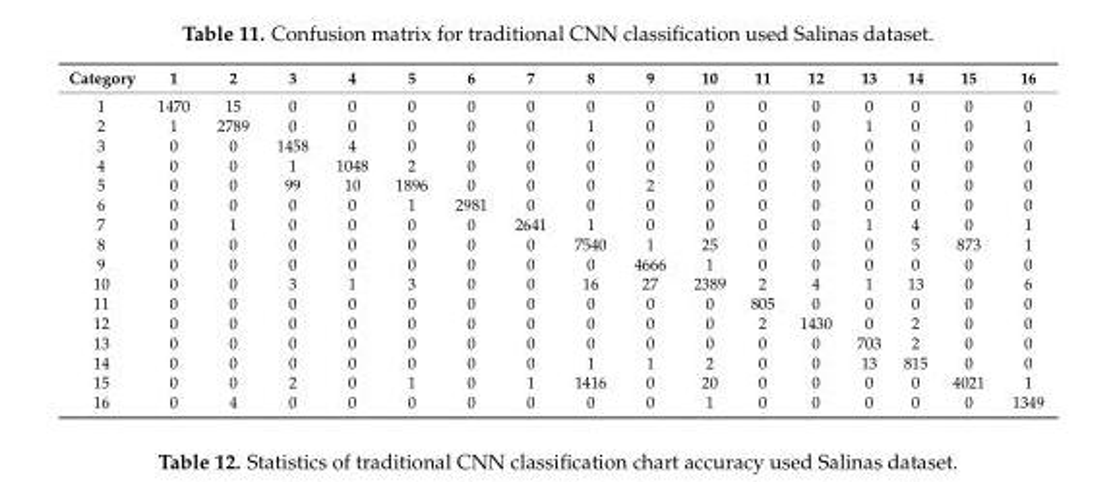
<table><thead><tr><td>Category</td><td>1</td><td>2</td><td>3</td><td>4</td><td>5</td><td>6</td><td>7</td><td>8</td><td>9</td><td>10</td><td>11</td><td>12</td><td>13</td><td>14</td><td>15</td><td>16</td></tr></thead><tbody><tr><td>1</td><td>1470</td><td>15</td><td>0</td><td>0</td><td>0</td><td>0</td><td>0</td><td>0</td><td>0</td><td>0</td><td>0</td><td>0</td><td>0</td><td>0</td><td>0</td><td>0</td></tr><tr><td>2</td><td>1</td><td>2789</td><td>0</td><td>0</td><td>0</td><td>0</td><td>0</td><td>1</td><td>0</td><td>0</td><td>0</td><td>0</td><td>1</td><td>0</td><td>0</td><td>1</td></tr><tr><td>3</td><td>0</td><td>0</td><td>1458</td><td>4</td><td>0</td><td>0</td><td>0</td><td>0</td><td>0</td><td>0</td><td>0</td><td>0</td><td>0</td><td>0</td><td>0</td><td>0</td></tr><tr><td>4</td><td>0</td><td>0</td><td>1</td><td>1048</td><td>2</td><td>0</td><td>0</td><td>0</td><td>0</td><td>0</td><td>0</td><td>0</td><td>0</td><td>0</td><td>0</td><td>0</td></tr><tr><td>5</td><td>0</td><td>0</td><td>99</td><td>10</td><td>1896</td><td>0</td><td>0</td><td>0</td><td>2</td><td>0</td><td>0</td><td>0</td><td>0</td><td>0</td><td>0</td><td>0</td></tr><tr><td>6</td><td>0</td><td>0</td><td>0</td><td>0</td><td>1</td><td>2981</td><td>0</td><td>0</td><td>0</td><td>0</td><td>0</td><td>0</td><td>0</td><td>0</td><td>0</td><td>0</td></tr><tr><td>7</td><td>0</td><td>1</td><td>0</td><td>0</td><td>0</td><td>0</td><td>2641</td><td>1</td><td>0</td><td>0</td><td>0</td><td>0</td><td>1</td><td>4</td><td>0</td><td>1</td></tr><tr><td>8</td><td>0</td><td>0</td><td>0</td><td>0</td><td>0</td><td>0</td><td>0</td><td>7540</td><td>1</td><td>25</td><td>0</td><td>0</td><td>0</td><td>5</td><td>873</td><td>1</td></tr><tr><td>9</td><td>0</td><td>0</td><td>0</td><td>0</td><td>0</td><td>0</td><td>0</td><td>0</td><td>4666</td><td>1</td><td>0</td><td>0</td><td>0</td><td>0</td><td>0</td><td>0</td></tr><tr><td>10</td><td>0</td><td>0</td><td>3</td><td>1</td><td>3</td><td>0</td><td>0</td><td>16</td><td>27</td><td>2389</td><td>2</td><td>4</td><td>1</td><td>13</td><td>0</td><td>6</td></tr><tr><td>11</td><td>0</td><td>0</td><td>0</td><td>0</td><td>0</td><td>0</td><td>0</td><td>0</td><td>0</td><td>0</td><td>805</td><td>0</td><td>0</td><td>0</td><td>0</td><td>0</td></tr><tr><td>12</td><td>0</td><td>0</td><td>0</td><td>0</td><td>0</td><td>0</td><td>0</td><td>0</td><td>0</td><td>0</td><td>2</td><td>1430</td><td>0</td><td>2</td><td>0</td><td>0</td></tr><tr><td>13</td><td>0</td><td>0</td><td>0</td><td>0</td><td>0</td><td>0</td><td>0</td><td>0</td><td>0</td><td>0</td><td>0</td><td>0</td><td>703</td><td>2</td><td>0</td><td>0</td></tr><tr><td>14</td><td>0</td><td>0</td><td>0</td><td>0</td><td>0</td><td>0</td><td>0</td><td>1</td><td>1</td><td>2</td><td>0</td><td>0</td><td>13</td><td>815</td><td>0</td><td>0</td></tr><tr><td>15</td><td>0</td><td>0</td><td>2</td><td>0</td><td>1</td><td>0</td><td>1</td><td>1416</td><td>0</td><td>20</td><td>0</td><td>0</td><td>0</td><td>0</td><td>4021</td><td>1</td></tr><tr><td>16</td><td>0</td><td>4</td><td>0</td><td>0</td><td>0</td><td>0</td><td>0</td><td>0</td><td>0</td><td>1</td><td>0</td><td>0</td><td>0</td><td>0</td><td>0</td><td>1349</td></tr></tbody></table>